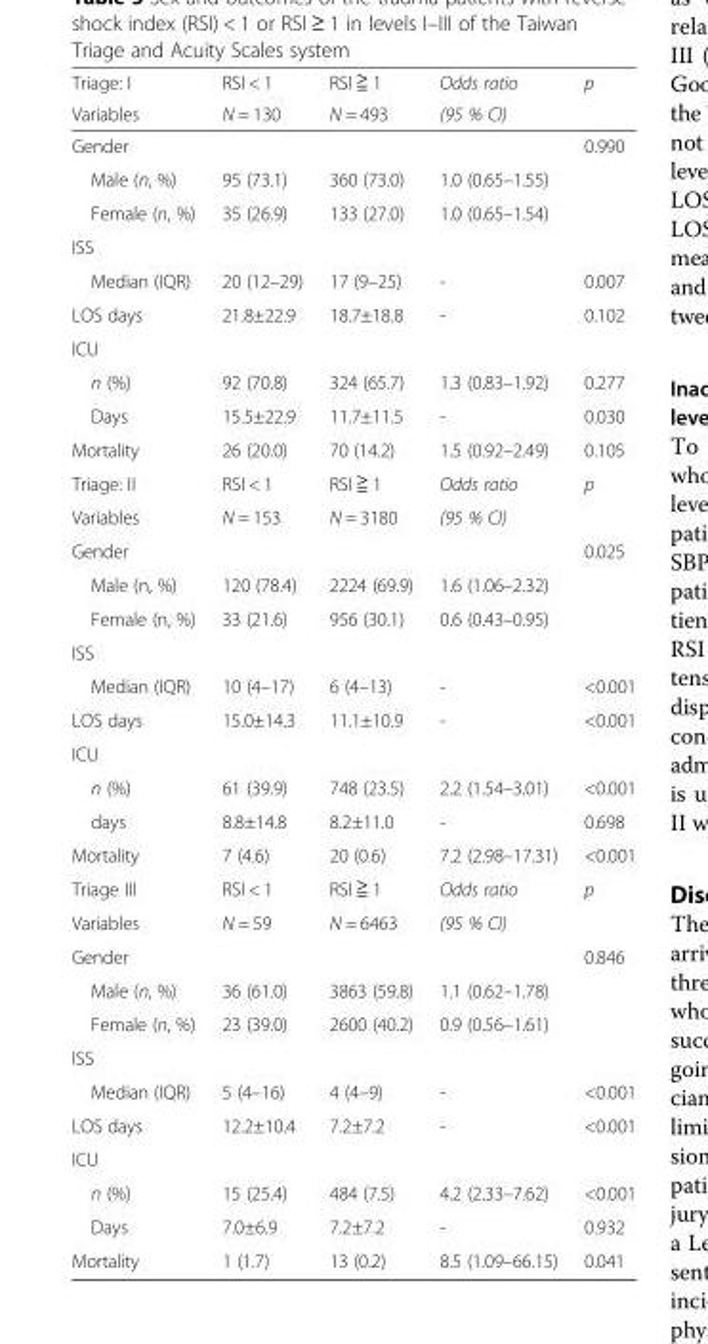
<table><thead><tr><td rowspan="2">Triage: I Variables</td><td rowspan="2">RSI &lt; 1 N = 130</td><td rowspan="2">RSI ≧ 1 N = 493</td><td rowspan="2">Odds ratio (95 % CI)</td><td rowspan="2">p</td></tr><tr></tr></thead><tbody><tr><td>Gender</td><td></td><td></td><td></td><td>0.990</td></tr><tr><td>Male (n, %)</td><td>95 (73.1)</td><td>360 (73.0)</td><td>1.0 (0.65–1.55)</td><td></td></tr><tr><td>Female (n, %)</td><td>35 (26.9)</td><td>133 (27.0)</td><td>1.0 (0.65–1.54)</td><td></td></tr><tr><td colspan="5">ISS</td></tr><tr><td>Median (IQR)</td><td>20 (12–29)</td><td>17 (9–25)</td><td>-</td><td>0.007</td></tr><tr><td>LOS days</td><td>21.8±22.9</td><td>18.7±18.8</td><td>-</td><td>0.102</td></tr><tr><td colspan="5">ICU</td></tr><tr><td>n (%)</td><td>92 (70.8)</td><td>324 (65.7)</td><td>1.3 (0.83–1.92)</td><td>0.277</td></tr><tr><td>Days</td><td>15.5±22.9</td><td>11.7±11.5</td><td>-</td><td>0.030</td></tr><tr><td>Mortality</td><td>26 (20.0)</td><td>70 (14.2)</td><td>1.5 (0.92–2.49)</td><td>0.105</td></tr><tr><td>Triage: II</td><td>RSI &lt; 1</td><td>RSI ≧ 1</td><td>Odds ratio</td><td rowspan="2">p</td></tr><tr><td>Variables</td><td>N = 153</td><td>N = 3180</td><td>(95 % CI)</td></tr><tr><td>Gender</td><td></td><td></td><td></td><td>0.025</td></tr><tr><td>Male (n, %)</td><td>120 (78.4)</td><td>2224 (69.9)</td><td>1.6 (1.06–2.32)</td><td></td></tr><tr><td>Female (n, %)</td><td>33 (21.6)</td><td>956 (30.1)</td><td>0.6 (0.43–0.95)</td><td></td></tr><tr><td colspan="5">ISS</td></tr><tr><td>Median (IQR)</td><td>10 (4–17)</td><td>6 (4–13)</td><td>-</td><td>&lt;0.001</td></tr><tr><td>LOS days</td><td>15.0±14.3</td><td>11.1±10.9</td><td>-</td><td>&lt;0.001</td></tr><tr><td colspan="5">ICU</td></tr><tr><td>n (%)</td><td>61 (39.9)</td><td>748 (23.5)</td><td>2.2 (1.54–3.01)</td><td>&lt;0.001</td></tr><tr><td>days</td><td>8.8±14.8</td><td>8.2±11.0</td><td>-</td><td>0.698</td></tr><tr><td>Mortality</td><td>7 (4.6)</td><td>20 (0.6)</td><td>7.2 (2.98–17.31)</td><td>&lt;0.001</td></tr><tr><td>Triage III</td><td>RSI &lt; 1</td><td>RSI ≧ 1</td><td>Odds ratio</td><td rowspan="2">p</td></tr><tr><td>Variables</td><td>N = 59</td><td>N = 6463</td><td>(95 % CI)</td></tr><tr><td>Gender</td><td></td><td></td><td></td><td>0.846</td></tr><tr><td>Male (n, %)</td><td>36 (61.0)</td><td>3863 (59.8)</td><td>1.1 (0.62–1.78)</td><td></td></tr><tr><td>Female (n, %)</td><td>23 (39.0)</td><td>2600 (40.2)</td><td>0.9 (0.56–1.61)</td><td></td></tr><tr><td colspan="5">ISS</td></tr><tr><td>Median (IQR)</td><td>5 (4–16)</td><td>4 (4–9)</td><td>-</td><td>&lt;0.001</td></tr><tr><td>LOS days</td><td>12.2±10.4</td><td>7.2±7.2</td><td>-</td><td>&lt;0.001</td></tr><tr><td colspan="5">ICU</td></tr><tr><td>n (%)</td><td>15 (25.4)</td><td>484 (7.5)</td><td>4.2 (2.33–7.62)</td><td>&lt;0.001</td></tr><tr><td>Days</td><td>7.0±6.9</td><td>7.2±7.2</td><td>-</td><td>0.932</td></tr><tr><td>Mortality</td><td>1 (1.7)</td><td>13 (0.2)</td><td>8.5 (1.09–66.15)</td><td>0.041</td></tr></tbody></table>